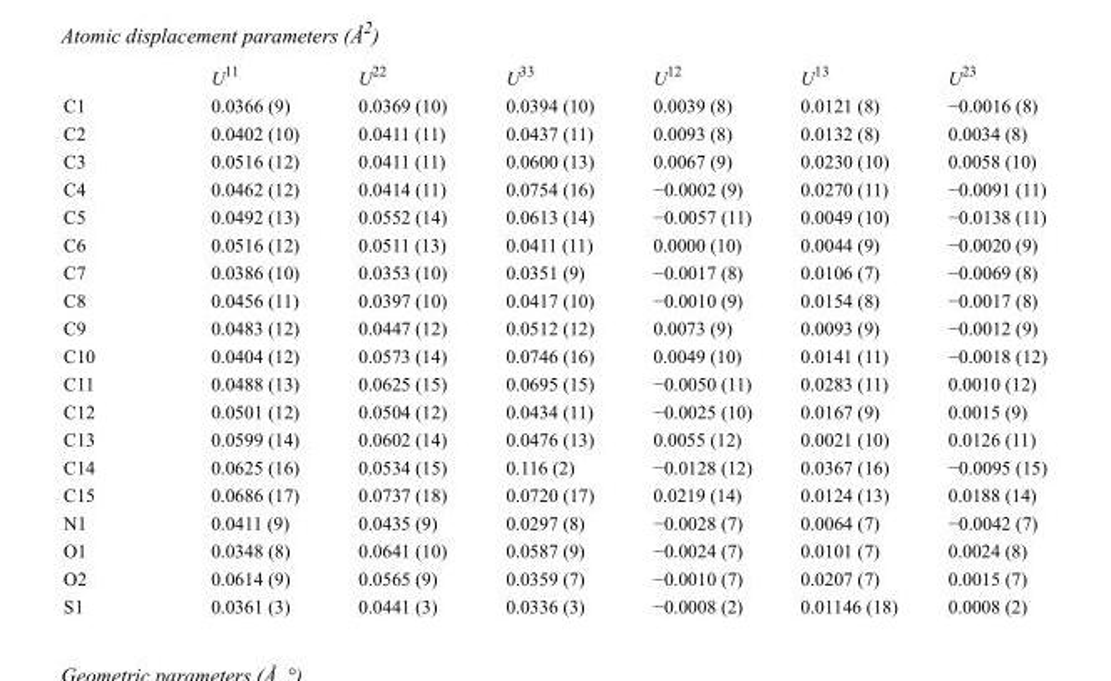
<table><thead><tr><td></td><td>U<sup>11</sup></td><td>U<sup>22</sup></td><td>U<sup>33</sup></td><td>U<sup>12</sup></td><td>U<sup>13</sup></td><td>U<sup>23</sup></td></tr></thead><tbody><tr><td>C1</td><td>0.0366 (9)</td><td>0.0369 (10)</td><td>0.0394 (10)</td><td>0.0039 (8)</td><td>0.0121 (8)</td><td>−0.0016 (8)</td></tr><tr><td>C2</td><td>0.0402 (10)</td><td>0.0411 (11)</td><td>0.0437 (11)</td><td>0.0093 (8)</td><td>0.0132 (8)</td><td>0.0034 (8)</td></tr><tr><td>C3</td><td>0.0516 (12)</td><td>0.0411 (11)</td><td>0.0600 (13)</td><td>0.0067 (9)</td><td>0.0230 (10)</td><td>0.0058 (10)</td></tr><tr><td>C4</td><td>0.0462 (12)</td><td>0.0414 (11)</td><td>0.0754 (16)</td><td>−0.0002 (9)</td><td>0.0270 (11)</td><td>−0.0091 (11)</td></tr><tr><td>C5</td><td>0.0492 (13)</td><td>0.0552 (14)</td><td>0.0613 (14)</td><td>−0.0057 (11)</td><td>0.0049 (10)</td><td>−0.0138 (11)</td></tr><tr><td>C6</td><td>0.0516 (12)</td><td>0.0511 (13)</td><td>0.0411 (11)</td><td>0.0000 (10)</td><td>0.0044 (9)</td><td>−0.0020 (9)</td></tr><tr><td>C7</td><td>0.0386 (10)</td><td>0.0353 (10)</td><td>0.0351 (9)</td><td>−0.0017 (8)</td><td>0.0106 (7)</td><td>−0.0069 (8)</td></tr><tr><td>C8</td><td>0.0456 (11)</td><td>0.0397 (10)</td><td>0.0417 (10)</td><td>−0.0010 (9)</td><td>0.0154 (8)</td><td>−0.0017 (8)</td></tr><tr><td>C9</td><td>0.0483 (12)</td><td>0.0447 (12)</td><td>0.0512 (12)</td><td>0.0073 (9)</td><td>0.0093 (9)</td><td>−0.0012 (9)</td></tr><tr><td>C10</td><td>0.0404 (12)</td><td>0.0573 (14)</td><td>0.0746 (16)</td><td>0.0049 (10)</td><td>0.0141 (11)</td><td>−0.0018 (12)</td></tr><tr><td>C11</td><td>0.0488 (13)</td><td>0.0625 (15)</td><td>0.0695 (15)</td><td>−0.0050 (11)</td><td>0.0283 (11)</td><td>0.0010 (12)</td></tr><tr><td>C12</td><td>0.0501 (12)</td><td>0.0504 (12)</td><td>0.0434 (11)</td><td>−0.0025 (10)</td><td>0.0167 (9)</td><td>0.0015 (9)</td></tr><tr><td>C13</td><td>0.0599 (14)</td><td>0.0602 (14)</td><td>0.0476 (13)</td><td>0.0055 (12)</td><td>0.0021 (10)</td><td>0.0126 (11)</td></tr><tr><td>C14</td><td>0.0625 (16)</td><td>0.0534 (15)</td><td>0.116 (2)</td><td>−0.0128 (12)</td><td>0.0367 (16)</td><td>−0.0095 (15)</td></tr><tr><td>C15</td><td>0.0686 (17)</td><td>0.0737 (18)</td><td>0.0720 (17)</td><td>0.0219 (14)</td><td>0.0124 (13)</td><td>0.0188 (14)</td></tr><tr><td>N1</td><td>0.0411 (9)</td><td>0.0435 (9)</td><td>0.0297 (8)</td><td>−0.0028 (7)</td><td>0.0064 (7)</td><td>−0.0042 (7)</td></tr><tr><td>O1</td><td>0.0348 (8)</td><td>0.0641 (10)</td><td>0.0587 (9)</td><td>−0.0024 (7)</td><td>0.0101 (7)</td><td>0.0024 (8)</td></tr><tr><td>O2</td><td>0.0614 (9)</td><td>0.0565 (9)</td><td>0.0359 (7)</td><td>−0.0010 (7)</td><td>0.0207 (7)</td><td>0.0015 (7)</td></tr><tr><td>S1</td><td>0.0361 (3)</td><td>0.0441 (3)</td><td>0.0336 (3)</td><td>−0.0008 (2)</td><td>0.01146 (18)</td><td>0.0008 (2)</td></tr></tbody></table>